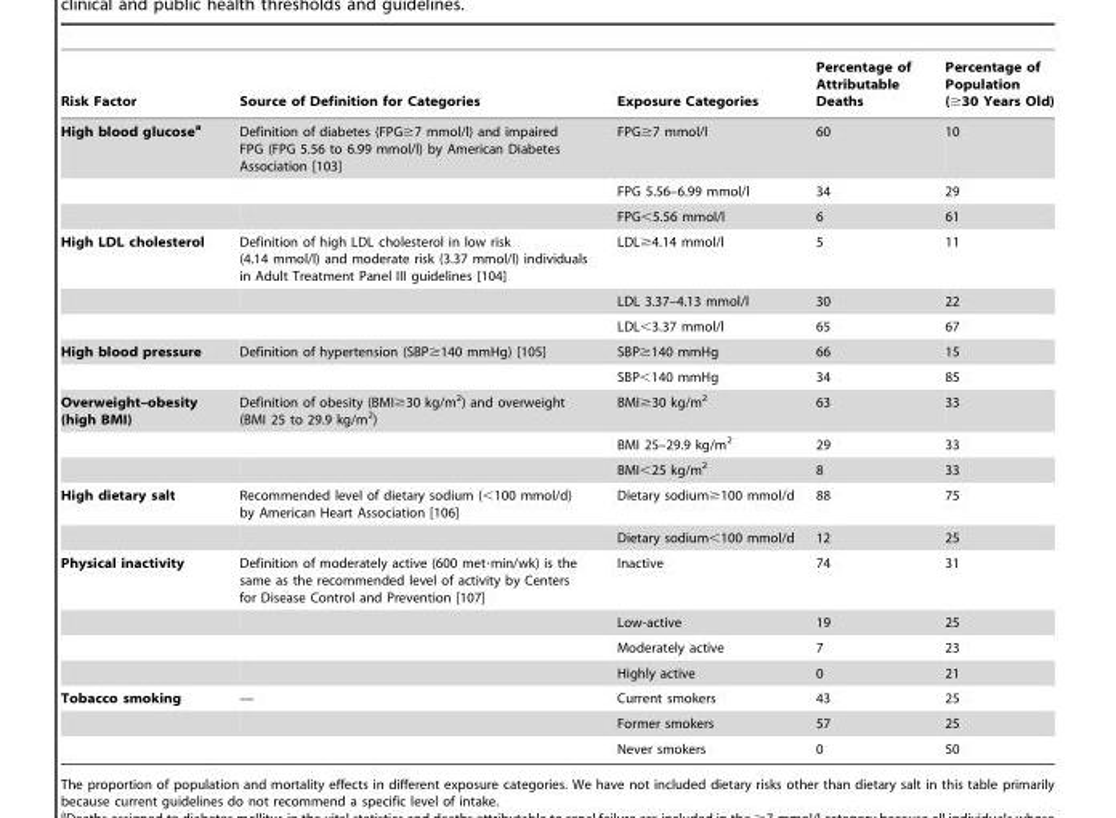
<table><thead><tr><td>Risk Factor</td><td>Source of Definition for Categories</td><td>Exposure Categories</td><td>Percentage of Attributable Deaths</td><td>Percentage of Population (≥30 Years Old)</td></tr></thead><tbody><tr><td rowspan="3">High blood glucosea</td><td>Definition of diabetes (FPG≥7 mmol/l) and impaired FPG (FPG 5.56 to 6.99 mmol/l) by American Diabetes Association [103]</td><td>FPG≥7 mmol/l</td><td>60</td><td>10</td></tr><tr><td></td><td>FPG 5.56–6.99 mmol/l</td><td>34</td><td>29</td></tr><tr><td></td><td>FPG&lt;5.56 mmol/l</td><td>6</td><td>61</td></tr><tr><td rowspan="3">High LDL cholesterol</td><td>Definition of high LDL cholesterol in low risk (4.14 mmol/l) and moderate risk (3.37 mmol/l) individuals in Adult Treatment Panel III guidelines [104]</td><td>LDL≥4.14 mmol/l</td><td>5</td><td>11</td></tr><tr><td></td><td>LDL 3.37–4.13 mmol/l</td><td>30</td><td>22</td></tr><tr><td></td><td>LDL&lt;3.37 mmol/l</td><td>65</td><td>67</td></tr><tr><td rowspan="2">High blood pressure</td><td>Definition of hypertension (SBP≥140 mmHg) [105]</td><td>SBP≥140 mmHg</td><td>66</td><td>15</td></tr><tr><td></td><td>SBP&lt;140 mmHg</td><td>34</td><td>85</td></tr><tr><td rowspan="3">Overweight–obesity (high BMI)</td><td>Definition of obesity (BMI≥30 kg/m<sup>2</sup>) and overweight (BMI 25 to 29.9 kg/m<sup>2</sup>)</td><td>BMI≥30 kg/m<sup>2</sup></td><td>63</td><td>33</td></tr><tr><td></td><td>BMI 25–29.9 kg/m<sup>2</sup></td><td>29</td><td>33</td></tr><tr><td></td><td>BMI&lt;25 kg/m<sup>2</sup></td><td>8</td><td>33</td></tr><tr><td rowspan="2">High dietary salt</td><td>Recommended level of dietary sodium (&lt;100 mmol/d) by American Heart Association [106]</td><td>Dietary sodium≥100 mmol/d</td><td>88</td><td>75</td></tr><tr><td></td><td>Dietary sodium&lt;100 mmol/d</td><td>12</td><td>25</td></tr><tr><td rowspan="4">Physical inactivity</td><td>Definition of moderately active (600 met·min/wk) is the same as the recommended level of activity by Centers for Disease Control and Prevention [107]</td><td>Inactive</td><td>74</td><td>31</td></tr><tr><td></td><td>Low-active</td><td>19</td><td>25</td></tr><tr><td></td><td>Moderately active</td><td>7</td><td>23</td></tr><tr><td></td><td>Highly active</td><td>0</td><td>21</td></tr><tr><td rowspan="3">Tobacco smoking</td><td>—</td><td>Current smokers</td><td>43</td><td>25</td></tr><tr><td></td><td>Former smokers</td><td>57</td><td>25</td></tr><tr><td></td><td>Never smokers</td><td>0</td><td>50</td></tr></tbody></table>